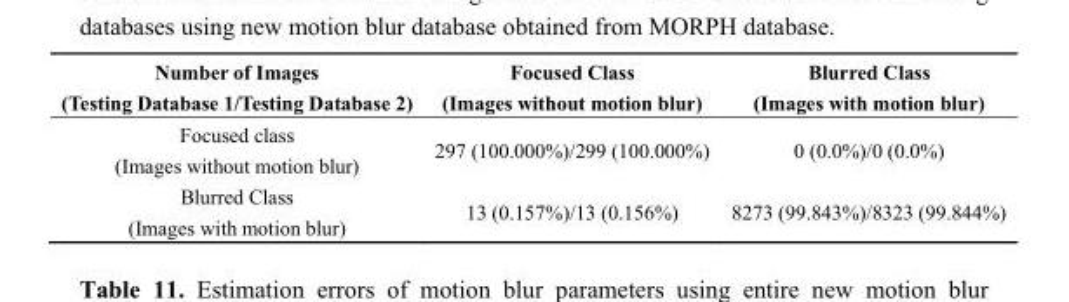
<table><thead><tr><td>Number of Images (Testing Database 1/Testing Database 2)</td><td>Focused Class (Images without motion blur)</td><td>Blurred Class (Images with motion blur)</td></tr></thead><tbody><tr><td>Focused class (Images without motion blur)</td><td>297 (100.000%)/299 (100.000%)</td><td>0 (0.0%)/0 (0.0%)</td></tr><tr><td>Blurred Class (Images with motion blur)</td><td>13 (0.157%)/13 (0.156%)</td><td>8273 (99.843%)/8323 (99.844%)</td></tr></tbody></table>